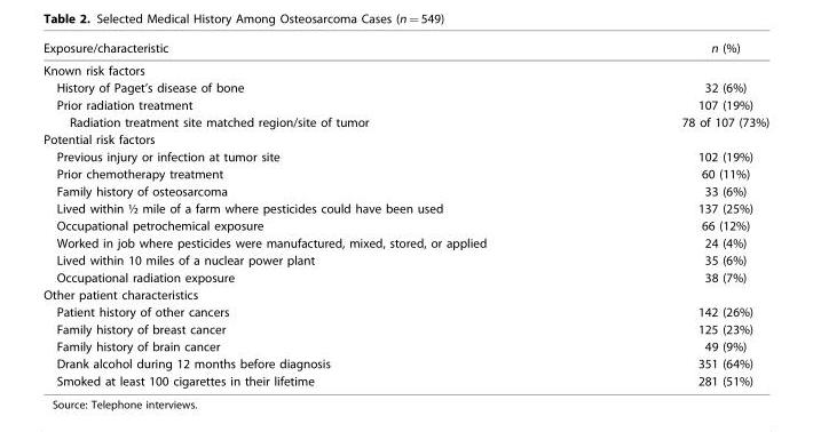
<table><thead><tr><td>Exposure/characteristic</td><td>n (%)</td></tr></thead><tbody><tr><td colspan="2">Known risk factors</td></tr><tr><td>History of Paget’s disease of bone</td><td>32 (6%)</td></tr><tr><td>Prior radiation treatment</td><td>107 (19%)</td></tr><tr><td>Radiation treatment site matched region/site of tumor</td><td>78 of 107 (73%)</td></tr><tr><td colspan="2">Potential risk factors</td></tr><tr><td>Previous injury or infection at tumor site</td><td>102 (19%)</td></tr><tr><td>Prior chemotherapy treatment</td><td>60 (11%)</td></tr><tr><td>Family history of osteosarcoma</td><td>33 (6%)</td></tr><tr><td>Lived within ½ mile of a farm where pesticides could have been used</td><td>137 (25%)</td></tr><tr><td>Occupational petrochemical exposure</td><td>66 (12%)</td></tr><tr><td>Worked in job where pesticides were manufactured, mixed, stored, or applied</td><td>24 (4%)</td></tr><tr><td>Lived within 10 miles of a nuclear power plant</td><td>35 (6%)</td></tr><tr><td>Occupational radiation exposure</td><td>38 (7%)</td></tr><tr><td colspan="2">Other patient characteristics</td></tr><tr><td>Patient history of other cancers</td><td>142 (26%)</td></tr><tr><td>Family history of breast cancer</td><td>125 (23%)</td></tr><tr><td>Family history of brain cancer</td><td>49 (9%)</td></tr><tr><td>Drank alcohol during 12 months before diagnosis</td><td>351 (64%)</td></tr><tr><td>Smoked at least 100 cigarettes in their lifetime</td><td>281 (51%)</td></tr></tbody></table>